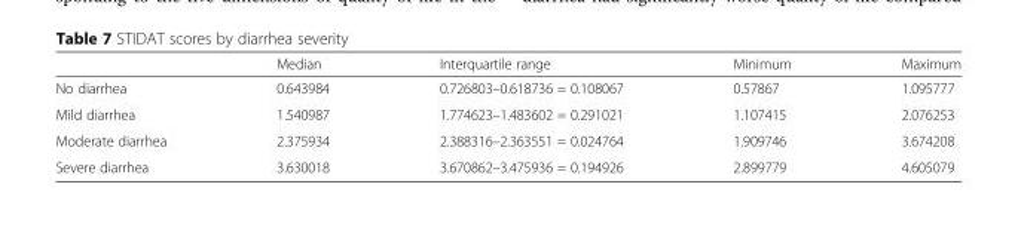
<table><thead><tr><td></td><td>Median</td><td>Interquartile range</td><td>Minimum</td><td>Maximum</td></tr></thead><tbody><tr><td>No diarrhea</td><td>0.643984</td><td>0.726803–0.618736 = 0.108067</td><td>0.57867</td><td>1.095777</td></tr><tr><td>Mild diarrhea</td><td>1.540987</td><td>1.774623–1.483602 = 0.291021</td><td>1.107415</td><td>2.076253</td></tr><tr><td>Moderate diarrhea</td><td>2.375934</td><td>2.388316–2.363551 = 0.024764</td><td>1.909746</td><td>3.674208</td></tr><tr><td>Severe diarrhea</td><td>3.630018</td><td>3.670862–3.475936 = 0.194926</td><td>2.899779</td><td>4.605079</td></tr></tbody></table>